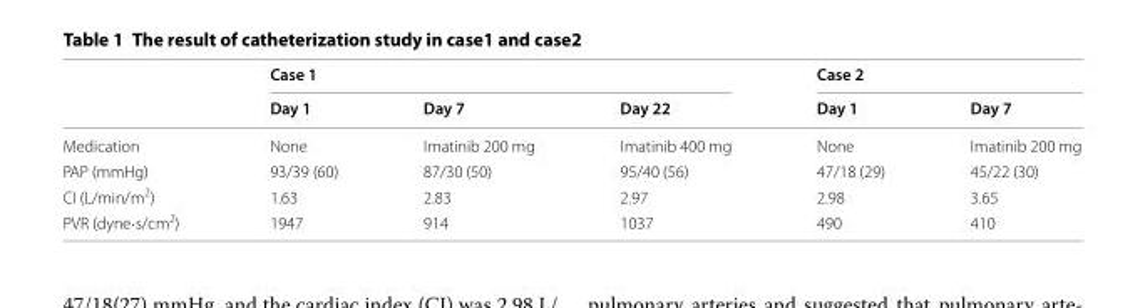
<table><thead><tr><td rowspan="2"></td><td colspan="3">Case 1</td><td colspan="2">Case 2</td></tr><tr><td>Day 1</td><td>Day 7</td><td>Day 22</td><td>Day 1</td><td>Day 7</td></tr></thead><tbody><tr><td>Medication</td><td>None</td><td>Imatinib 200 mg</td><td>Imatinib 400 mg</td><td>None</td><td>Imatinib 200 mg</td></tr><tr><td>PAP (mmHg)</td><td>93/39 (60)</td><td>87/30 (50)</td><td>95/40 (56)</td><td>47/18 (29)</td><td>45/22 (30)</td></tr><tr><td>CI (L/min/m<sup>2</sup>)</td><td>1.63</td><td>2.83</td><td>2.97</td><td>2.98</td><td>3.65</td></tr><tr><td>PVR (dyne·s/cm<sup>2</sup>)</td><td>1947</td><td>914</td><td>1037</td><td>490</td><td>410</td></tr></tbody></table>